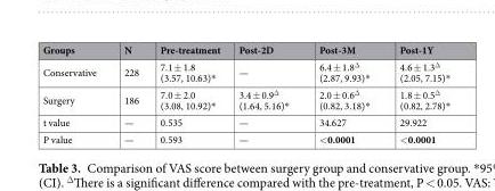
<table><thead><tr><td>Groups</td><td>N</td><td>Pre-treatment</td><td>Post-2D</td><td>Post-3M</td><td>Post-1Y</td></tr></thead><tbody><tr><td>Conservative</td><td>228</td><td>7.1 ± 1.8 (3.57, 10.63)*</td><td>—</td><td>6.4 ± 1.8<sup>Δ</sup> (2.87, 9.93)*</td><td>4.6 ± 1.3<sup>Δ</sup> (2.05, 7.15)*</td></tr><tr><td>Surgery</td><td>186</td><td>7.0 ± 2.0 (3.08, 10.92)*</td><td>3.4 ± 0.9<sup>Δ</sup> (1.64, 5.16)*</td><td>2.0 ± 0.6<sup>Δ</sup> (0.82, 3.18)*</td><td>1.8 ± 0.5<sup>Δ</sup> (0.82, 2.78)*</td></tr><tr><td>t value</td><td>—</td><td>0.535</td><td>—</td><td>34.627</td><td>29.922</td></tr><tr><td>P value</td><td>—</td><td>0.593</td><td>—</td><td>&lt;0.0001</td><td>&lt;0.0001</td></tr></tbody></table>